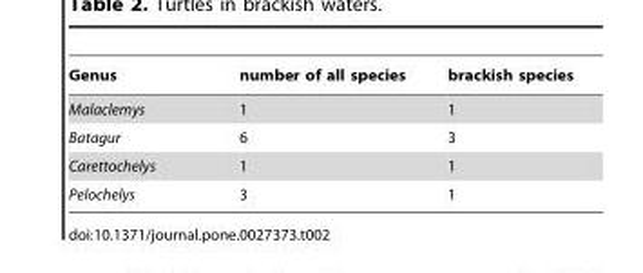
<table><thead><tr><td>Genus</td><td>number of all species</td><td>brackish species</td></tr></thead><tbody><tr><td>Malaclemys</td><td>1</td><td>1</td></tr><tr><td>Batagur</td><td>6</td><td>3</td></tr><tr><td>Carettochelys</td><td>1</td><td>1</td></tr><tr><td>Pelochelys</td><td>3</td><td>1</td></tr></tbody></table>